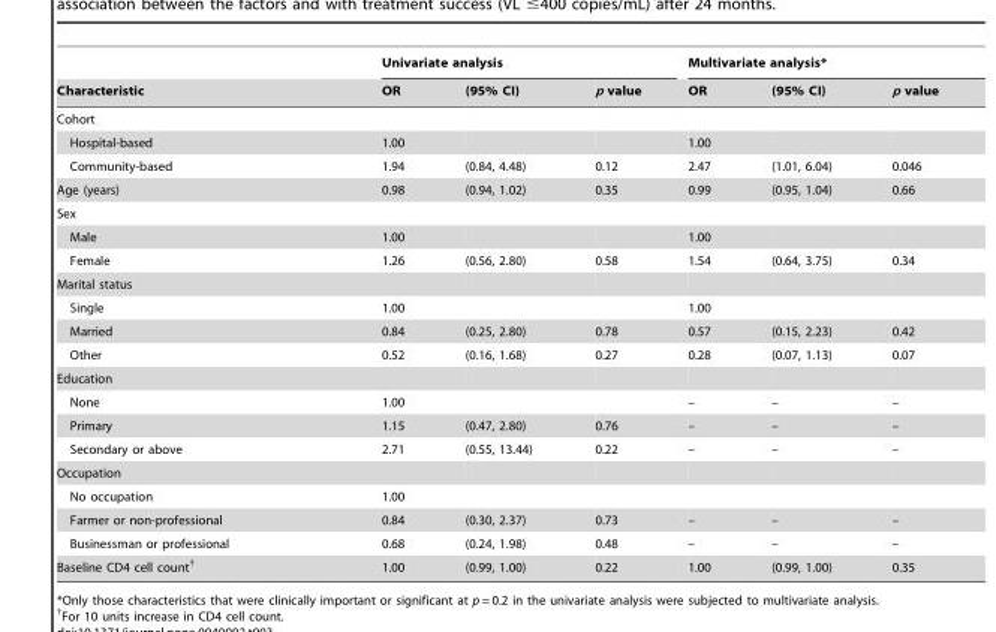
<table><thead><tr><td rowspan="2">Characteristic</td><td colspan="3">Univariate analysis</td><td colspan="3">Multivariate analysis*</td></tr><tr><td>OR</td><td>(95% CI)</td><td>p value</td><td>OR</td><td>(95% CI)</td><td>p value</td></tr></thead><tbody><tr><td colspan="7">Cohort</td></tr><tr><td>Hospital-based</td><td>1.00</td><td></td><td></td><td>1.00</td><td></td><td></td></tr><tr><td>Community-based</td><td>1.94</td><td>(0.84, 4.48)</td><td>0.12</td><td>2.47</td><td>(1.01, 6.04)</td><td>0.046</td></tr><tr><td>Age (years)</td><td>0.98</td><td>(0.94, 1.02)</td><td>0.35</td><td>0.99</td><td>(0.95, 1.04)</td><td>0.66</td></tr><tr><td colspan="7">Sex</td></tr><tr><td>Male</td><td>1.00</td><td></td><td></td><td>1.00</td><td></td><td></td></tr><tr><td>Female</td><td>1.26</td><td>(0.56, 2.80)</td><td>0.58</td><td>1.54</td><td>(0.64, 3.75)</td><td>0.34</td></tr><tr><td colspan="7">Marital status</td></tr><tr><td>Single</td><td>1.00</td><td></td><td></td><td>1.00</td><td></td><td></td></tr><tr><td>Married</td><td>0.84</td><td>(0.25, 2.80)</td><td>0.78</td><td>0.57</td><td>(0.15, 2.23)</td><td>0.42</td></tr><tr><td>Other</td><td>0.52</td><td>(0.16, 1.68)</td><td>0.27</td><td>0.28</td><td>(0.07, 1.13)</td><td>0.07</td></tr><tr><td colspan="7">Education</td></tr><tr><td>None</td><td>1.00</td><td></td><td></td><td>–</td><td>–</td><td>–</td></tr><tr><td>Primary</td><td>1.15</td><td>(0.47, 2.80)</td><td>0.76</td><td>–</td><td>–</td><td>–</td></tr><tr><td>Secondary or above</td><td>2.71</td><td>(0.55, 13.44)</td><td>0.22</td><td>–</td><td>–</td><td>–</td></tr><tr><td colspan="7">Occupation</td></tr><tr><td>No occupation</td><td>1.00</td><td></td><td></td><td></td><td></td><td></td></tr><tr><td>Farmer or non-professional</td><td>0.84</td><td>(0.30, 2.37)</td><td>0.73</td><td>–</td><td>–</td><td>–</td></tr><tr><td>Businessman or professional</td><td>0.68</td><td>(0.24, 1.98)</td><td>0.48</td><td>–</td><td>–</td><td>–</td></tr><tr><td>Baseline CD4 cell count†</td><td>1.00</td><td>(0.99, 1.00)</td><td>0.22</td><td>1.00</td><td>(0.99, 1.00)</td><td>0.35</td></tr></tbody></table>